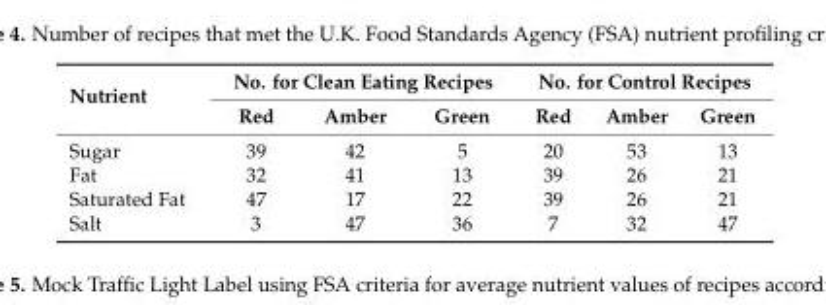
<table><thead><tr><td rowspan="2">Nutrient</td><td colspan="3">No. for Clean Eating Recipes</td><td colspan="3">No. for Control Recipes</td></tr><tr><td>Red</td><td>Amber</td><td>Green</td><td>Red</td><td>Amber</td><td>Green</td></tr></thead><tbody><tr><td>Sugar</td><td>39</td><td>42</td><td>5</td><td>20</td><td>53</td><td>13</td></tr><tr><td>Fat</td><td>32</td><td>41</td><td>13</td><td>39</td><td>26</td><td>21</td></tr><tr><td>Saturated Fat</td><td>47</td><td>17</td><td>22</td><td>39</td><td>26</td><td>21</td></tr><tr><td>Salt</td><td>3</td><td>47</td><td>36</td><td>7</td><td>32</td><td>47</td></tr></tbody></table>